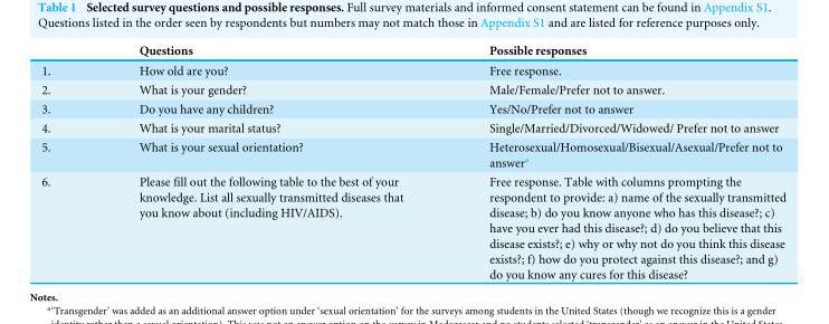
<table><thead><tr><td></td><td>Questions</td><td>Possible responses</td></tr></thead><tbody><tr><td>1.</td><td>How old are you?</td><td>Free response.</td></tr><tr><td>2.</td><td>What is your gender?</td><td>Male/Female/Prefer not to answer.</td></tr><tr><td>3.</td><td>Do you have any children?</td><td>Yes/No/Prefer not to answer</td></tr><tr><td>4.</td><td>What is your marital status?</td><td>Single/Married/Divorced/Widowed/ Prefer not to answer</td></tr><tr><td>5.</td><td>What is your sexual orientation?</td><td>Heterosexual/Homosexual/Bisexual/Asexual/Prefer not to answer<sup>a</sup></td></tr><tr><td>6.</td><td>Please fill out the following table to the best of your knowledge. List all sexually transmitted diseases that you know about (including HIV/AIDS).</td><td>Free response. Table with columns prompting the respondent to provide: a) name of the sexually transmitted disease; b) do you know anyone who has this disease?; c) have you ever had this disease?; d) do you believe that this disease exists?; e) why or why not do you think this disease exists?; f) how do you protect against this disease?; and g) do you know any cures for this disease?</td></tr></tbody></table>